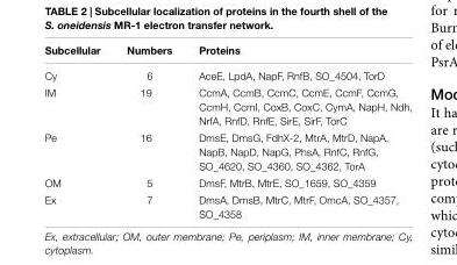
<table><thead><tr><td>Subcellular</td><td>Numbers</td><td>Proteins</td></tr></thead><tbody><tr><td>Cy</td><td>6</td><td>AceE, LpdA, NapF, RnfB, SO_4504, TorD</td></tr><tr><td>IM</td><td>19</td><td>CcmA, CcmB, CcmC, CcmE, CcmF, CcmG, CcmH, CcmI, CoxB, CoxC, CymA, NapH, Ndh, NrfA, RnfD, RnfE, SirE, SirF, TorC</td></tr><tr><td>Pe</td><td>16</td><td>DmsE, DmsG, FdhX-2, MtrA, MtrD, NapA, NapB, NapD, NapG, PhsA, RnfC, RnfG, SO_4620, SO_4360, SO_4362, TorA</td></tr><tr><td>OM</td><td>5</td><td>DmsF, MtrB, MtrE, SO_1659, SO_4359</td></tr><tr><td>Ex</td><td>7</td><td>DmsA, DmsB, MtrC, MtrF, OmcA, SO_4357, SO_4358</td></tr></tbody></table>